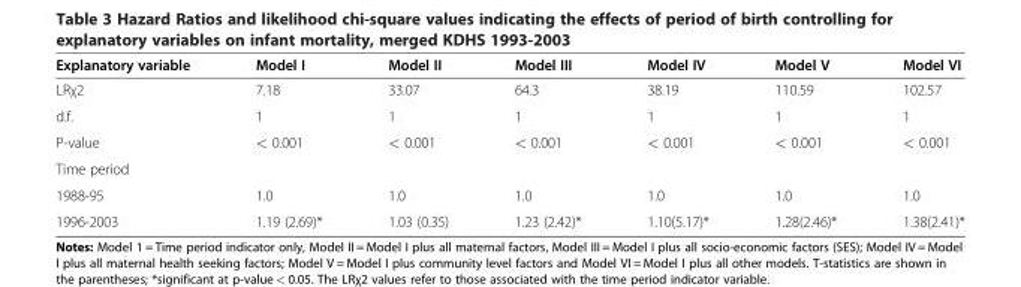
<table><thead><tr><td>Explanatory variable</td><td>Model I</td><td>Model II</td><td>Model III</td><td>Model IV</td><td>Model V</td><td>Model VI</td></tr></thead><tbody><tr><td>LRχ2</td><td>7.18</td><td>33.07</td><td>64.3</td><td>38.19</td><td>110.59</td><td>102.57</td></tr><tr><td>d.f.</td><td>1</td><td>1</td><td>1</td><td>1</td><td>1</td><td>1</td></tr><tr><td>P-value</td><td>&lt; 0.001</td><td>&lt; 0.001</td><td>&lt; 0.001</td><td>&lt; 0.001</td><td>&lt; 0.001</td><td>&lt; 0.001</td></tr><tr><td colspan="7">Time period</td></tr><tr><td>1988-95</td><td>1.0</td><td>1.0</td><td>1.0</td><td>1.0</td><td>1.0</td><td>1.0</td></tr><tr><td>1996-2003</td><td>1.19 (2.69)*</td><td>1.03 (0.35)</td><td>1.23 (2.42)*</td><td>1.10(5.17)*</td><td>1.28(2.46)*</td><td>1.38(2.41)*</td></tr></tbody></table>